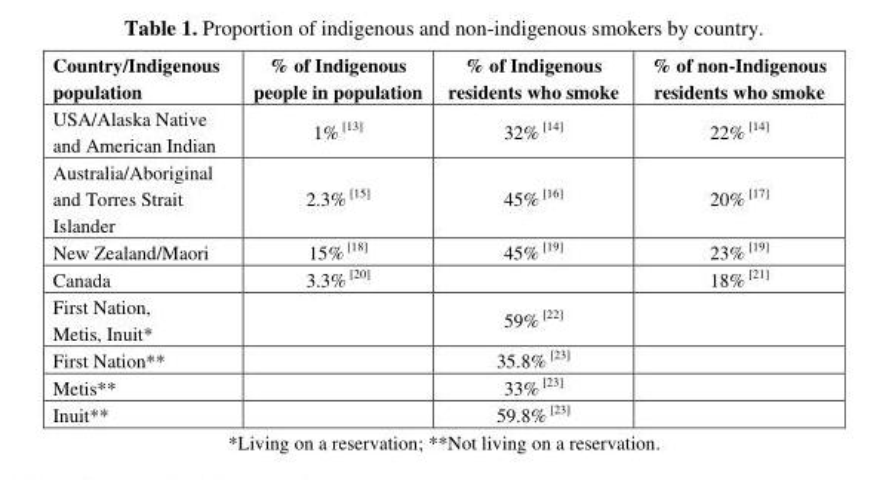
<table><thead><tr><td>Country/Indigenous population</td><td>% of Indigenous people in population</td><td>% of Indigenous residents who smoke</td><td>% of non-Indigenous residents who smoke</td></tr></thead><tbody><tr><td>USA/Alaska Native and American Indian</td><td>1% <sup>[13]</sup></td><td>32% <sup>[14]</sup></td><td>22% <sup>[14]</sup></td></tr><tr><td>Australia/Aboriginal and Torres Strait Islander</td><td>2.3% <sup>[15]</sup></td><td>45% <sup>[16]</sup></td><td>20% <sup>[17]</sup></td></tr><tr><td>New Zealand/Maori</td><td>15% <sup>[18]</sup></td><td>45% <sup>[19]</sup></td><td>23% <sup>[19]</sup></td></tr><tr><td>Canada</td><td>3.3% <sup>[20]</sup></td><td></td><td>18% <sup>[21]</sup></td></tr><tr><td>First Nation, Metis, Inuit*</td><td></td><td>59% <sup>[22]</sup></td><td></td></tr><tr><td>First Nation**</td><td></td><td>35.8% <sup>[23]</sup></td><td></td></tr><tr><td>Metis**</td><td></td><td>33% <sup>[23]</sup></td><td></td></tr><tr><td>Inuit**</td><td></td><td>59.8% <sup>[23]</sup></td><td></td></tr></tbody></table>